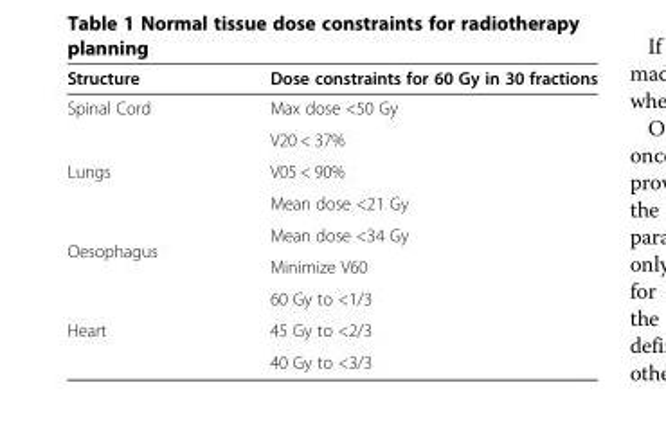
<table><thead><tr><td>Structure</td><td>Dose constraints for 60 Gy in 30 fractions</td></tr></thead><tbody><tr><td>Spinal Cord</td><td>Max dose &lt;50 Gy</td></tr><tr><td rowspan="3">Lungs</td><td>V20 &lt; 37%</td></tr><tr><td>V05 &lt; 90%</td></tr><tr><td>Mean dose &lt;21 Gy</td></tr><tr><td rowspan="2">Oesophagus</td><td>Mean dose &lt;34 Gy</td></tr><tr><td>Minimize V60</td></tr><tr><td rowspan="3">Heart</td><td>60 Gy to &lt;1/3</td></tr><tr><td>45 Gy to &lt;2/3</td></tr><tr><td>40 Gy to &lt;3/3</td></tr></tbody></table>